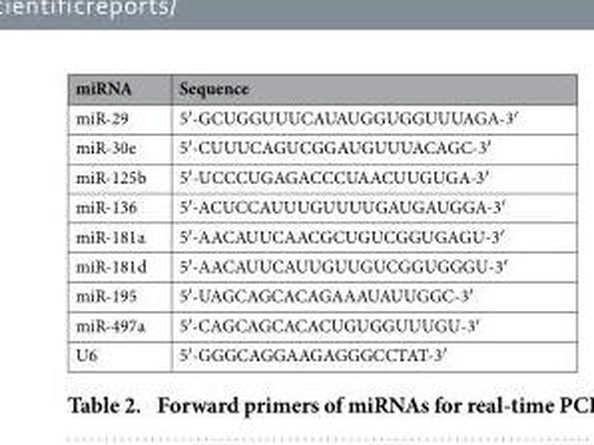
<table><thead><tr><td>miRNA</td><td>Sequence</td></tr></thead><tbody><tr><td>miR-29</td><td>5′ -GCUGGUUUCAUAUGGUGGUUUAGA-3′</td></tr><tr><td>miR-30e</td><td>5′ -CUUUCAGUCGGAUGUUUACAGC-3′</td></tr><tr><td>miR-125b</td><td>5′ -UCCCUGAGACCCUAACUUGUGA-3′</td></tr><tr><td>miR-136</td><td>5′ -ACUCCAUUUGUUUUGAUGAUGGA-3′</td></tr><tr><td>miR-181a</td><td>5′ -AACAUUCAACGCUGUCGGUGAGU-3′</td></tr><tr><td>miR-181d</td><td>5′ -AACAUUCAUUGUUGUCGGUGGGU-3′</td></tr><tr><td>miR-195</td><td>5′ -UAGCAGCACAGAAAUAUUGGC-3′</td></tr><tr><td>miR-497a</td><td>5′ -CAGCAGCACACUGUGGUUUGU-3′</td></tr><tr><td>U6</td><td>5′ -GGGCAGGAAGAGGGCCTAT-3′</td></tr></tbody></table>